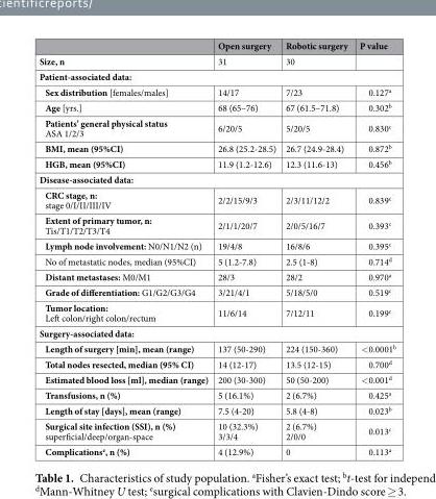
<table><thead><tr><td></td><td>Open surgery</td><td>Robotic surgery</td><td>P value</td></tr></thead><tbody><tr><td>Size, n</td><td>31</td><td>30</td><td></td></tr><tr><td colspan="4">Patient-associated data:</td></tr><tr><td>Sex distribution [females/males]</td><td>14/17</td><td>7/23</td><td>0.127<sup>a</sup></td></tr><tr><td>Age [yrs.]</td><td>68 (65–76)</td><td>67 (61.5–71.8)</td><td>0.302<sup>b</sup></td></tr><tr><td>Patients’ general physical status ASA 1/2/3</td><td>6/20/5</td><td>5/20/5</td><td>0.830<sup>c</sup></td></tr><tr><td>BMI, mean (95%CI)</td><td>26.8 (25.2-28.5)</td><td>26.7 (24.9-28.4)</td><td>0.872<sup>b</sup></td></tr><tr><td>HGB, mean (95%CI)</td><td>11.9 (1.2-12.6)</td><td>12.3 (11.6-13)</td><td>0.456<sup>b</sup></td></tr><tr><td colspan="4">Disease-associated data:</td></tr><tr><td>CRC stage, n: stage 0/I/II/III/IV</td><td>2/2/15/9/3</td><td>2/3/11/12/2</td><td>0.839<sup>c</sup></td></tr><tr><td>Extent of primary tumor, n: Tis/T1/T2/T3/T4</td><td>2/1/1/20/7</td><td>2/0/5/16/7</td><td>0.393<sup>c</sup></td></tr><tr><td>Lymph node involvement: N0/N1/N2 (n)</td><td>19/4/8</td><td>16/8/6</td><td>0.395<sup>c</sup></td></tr><tr><td>No of metastatic nodes, median (95%CI)</td><td>5 (1.2-7.8)</td><td>2.5 (1-8)</td><td>0.714<sup>d</sup></td></tr><tr><td>Distant metastases: M0/M1</td><td>28/3</td><td>28/2</td><td>0.970<sup>a</sup></td></tr><tr><td>Grade of differentiation: G1/G2/G3/G4</td><td>3/21/4/1</td><td>5/18/5/0</td><td>0.519<sup>c</sup></td></tr><tr><td>Tumor location: Left colon/right colon/rectum</td><td>11/6/14</td><td>7/12/11</td><td>0.199<sup>c</sup></td></tr><tr><td colspan="4">Surgery-associated data:</td></tr><tr><td>Length of surgery [min], mean (range)</td><td>137 (50-290)</td><td>224 (150-360)</td><td>&lt;0.0001<sup>b</sup></td></tr><tr><td>Total nodes resected, median (95% CI)</td><td>14 (12-17)</td><td>13.5 (12-15)</td><td>0.700<sup>d</sup></td></tr><tr><td>Estimated blood loss [ml], median (range)</td><td>200 (30-300)</td><td>50 (50-200)</td><td>&lt;0.001<sup>d</sup></td></tr><tr><td>Transfusions, n (%)</td><td>5 (16.1%)</td><td>2 (6.7%)</td><td>0.425<sup>a</sup></td></tr><tr><td>Length of stay [days], mean (range)</td><td>7.5 (4-20)</td><td>5.8 (4-8)</td><td>0.023<sup>b</sup></td></tr><tr><td>Surgical site infection (SSI), n (%) superficial/deep/organ-space</td><td>10 (32.3%) 3/3/4</td><td>2 (6.7%) 2/0/0</td><td>0.013<sup>c</sup></td></tr><tr><td>Complications<sup>e</sup>, n (%)</td><td>4 (12.9%)</td><td>0</td><td>0.113<sup>a</sup></td></tr></tbody></table>